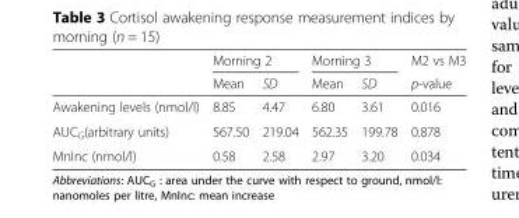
<table><thead><tr><td rowspan="2"></td><td colspan="2">Morning 2</td><td colspan="2">Morning 3</td><td rowspan="2">M2 vs M3 p-value</td></tr><tr><td>Mean</td><td>SD</td><td>Mean</td><td>SD</td></tr></thead><tbody><tr><td>Awakening levels (nmol/l)</td><td>8.85</td><td>4.47</td><td>6.80</td><td>3.61</td><td>0.016</td></tr><tr><td>AUC<sub>G</sub>(arbitrary units)</td><td>567.50</td><td>219.04</td><td>562.35</td><td>199.78</td><td>0.878</td></tr><tr><td>MnInc (nmol/l)</td><td>0.58</td><td>2.58</td><td>2.97</td><td>3.20</td><td>0.034</td></tr></tbody></table>